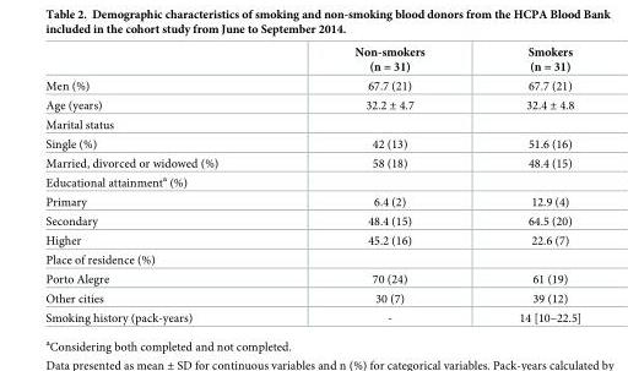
<table><thead><tr><td></td><td>Non-smokers (n = 31)</td><td>Smokers (n = 31)</td></tr></thead><tbody><tr><td>Men (%)</td><td>67.7 (21)</td><td>67.7 (21)</td></tr><tr><td>Age (years)</td><td>32.2 ± 4.7</td><td>32.4 ± 4.8</td></tr><tr><td colspan="3">Marital status</td></tr><tr><td>Single (%)</td><td>42 (13)</td><td>51.6 (16)</td></tr><tr><td>Married, divorced or widowed (%)</td><td>58 (18)</td><td>48.4 (15)</td></tr><tr><td colspan="3">Educational attainment<sup>a</sup> (%)</td></tr><tr><td>Primary</td><td>6.4 (2)</td><td>12.9 (4)</td></tr><tr><td>Secondary</td><td>48.4 (15)</td><td>64.5 (20)</td></tr><tr><td>Higher</td><td>45.2 (16)</td><td>22.6 (7)</td></tr><tr><td colspan="3">Place of residence (%)</td></tr><tr><td>Porto Alegre</td><td>70 (24)</td><td>61 (19)</td></tr><tr><td>Other cities</td><td>30 (7)</td><td>39 (12)</td></tr><tr><td>Smoking history (pack-years)</td><td>-</td><td>14 [10–22.5]</td></tr></tbody></table>